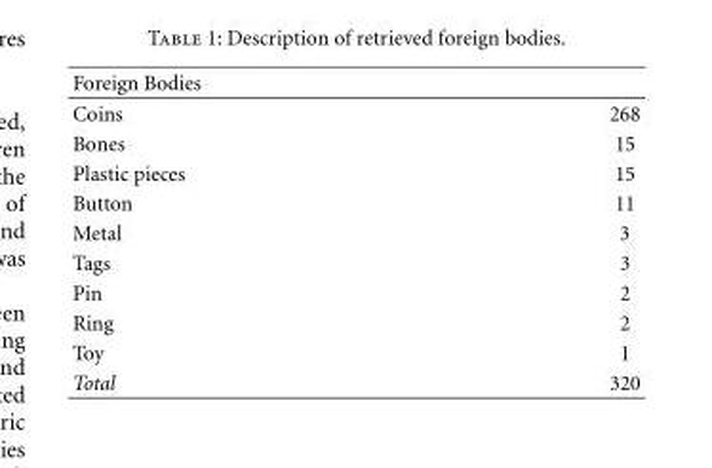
<table><thead><tr><td>Foreign Bodies</td><td></td></tr></thead><tbody><tr><td>Coins</td><td>268</td></tr><tr><td>Bones</td><td>15</td></tr><tr><td>Plastic pieces</td><td>15</td></tr><tr><td>Button</td><td>11</td></tr><tr><td>Metal</td><td>3</td></tr><tr><td>Tags</td><td>3</td></tr><tr><td>Pin</td><td>2</td></tr><tr><td>Ring</td><td>2</td></tr><tr><td>Toy</td><td>1</td></tr><tr><td>Total</td><td>320</td></tr></tbody></table>